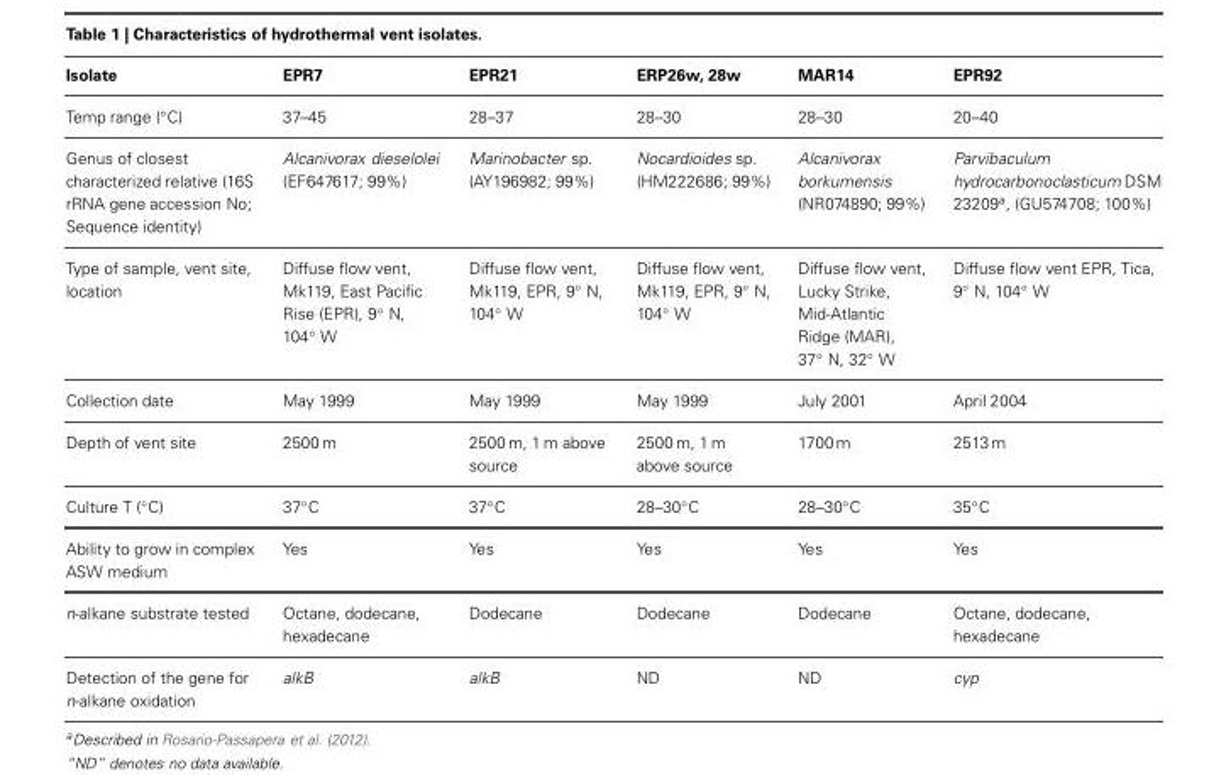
<table><thead><tr><td>Isolate</td><td>EPR7</td><td>EPR21</td><td>ERP26w, 28w</td><td>MAR14</td><td>EPR92</td></tr></thead><tbody><tr><td>Temp range (◦C)</td><td>37–45</td><td>28–37</td><td>28–30</td><td>28–30</td><td>20–40</td></tr><tr><td>Genus of closest characterized relative (16S rRNA gene accession No; Sequence identity)</td><td>Alcanivorax dieselolei (EF647617; 99%)</td><td>Marinobacter sp. (AY196982; 99%)</td><td>Nocardioides sp. (HM222686; 99%)</td><td>Alcanivorax borkumensis (NR074890; 99%)</td><td>Parvibaculum hydrocarbonoclasticum DSM 23209<sup>a</sup>, (GU574708; 100%)</td></tr><tr><td>Type of sample, vent site, location</td><td>Diffuse flow vent, Mk119, East Pacific Rise (EPR), 9◦ N, 104◦ W</td><td>Diffuse flow vent, Mk119, EPR, 9◦ N, 104◦ W</td><td>Diffuse flow vent, Mk119, EPR, 9◦ N, 104◦ W</td><td>Diffuse flow vent, Lucky Strike, Mid-Atlantic Ridge (MAR), 37◦ N, 32◦ W</td><td>Diffuse flow vent EPR, Tica, 9◦ N, 104◦ W</td></tr><tr><td>Collection date</td><td>May 1999</td><td>May 1999</td><td>May 1999</td><td>July 2001</td><td>April 2004</td></tr><tr><td>Depth of vent site</td><td>2500 m</td><td>2500 m, 1 m above source</td><td>2500 m, 1 m above source</td><td>1700 m</td><td>2513m</td></tr><tr><td>Culture T (◦C)</td><td>37◦C</td><td>37◦C</td><td>28–30◦C</td><td>28–30◦C</td><td>35◦C</td></tr><tr><td>Ability to grow in complex ASW medium</td><td>Yes</td><td>Yes</td><td>Yes</td><td>Yes</td><td>Yes</td></tr><tr><td>n-alkane substrate tested</td><td>Octane, dodecane, hexadecane</td><td>Dodecane</td><td>Dodecane</td><td>Dodecane</td><td>Octane, dodecane, hexadecane</td></tr><tr><td>Detection of the gene for n-alkane oxidation</td><td>alkB</td><td>alkB</td><td>ND</td><td>ND</td><td>cyp</td></tr></tbody></table>